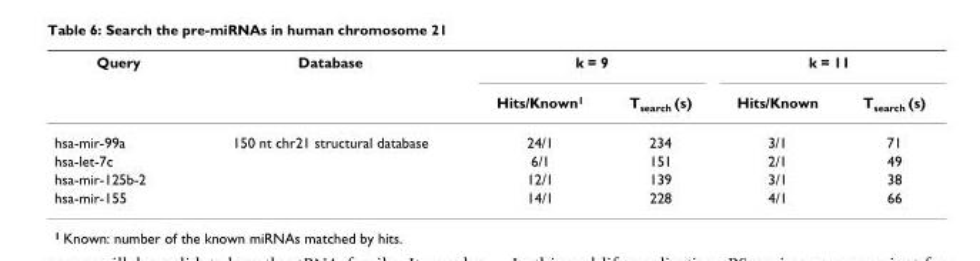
<table><thead><tr><td rowspan="2">Query</td><td rowspan="2">Database</td><td colspan="2">k = 9</td><td colspan="2">k = 11</td></tr><tr><td>Hits/Known<sup>1</sup></td><td>T<sub>search</sub> (s)</td><td>Hits/Known</td><td>T<sub>search</sub> (s)</td></tr></thead><tbody><tr><td>hsa-mir-99a</td><td>150 nt chr21 structural database</td><td>24/1</td><td>234</td><td>3/1</td><td>71</td></tr><tr><td>hsa-let-7c</td><td></td><td>6/1</td><td>151</td><td>2/1</td><td>49</td></tr><tr><td>hsa-mir-125b-2</td><td></td><td>12/1</td><td>139</td><td>3/1</td><td>38</td></tr><tr><td>hsa-mir-155</td><td></td><td>14/1</td><td>228</td><td>4/1</td><td>66</td></tr></tbody></table>